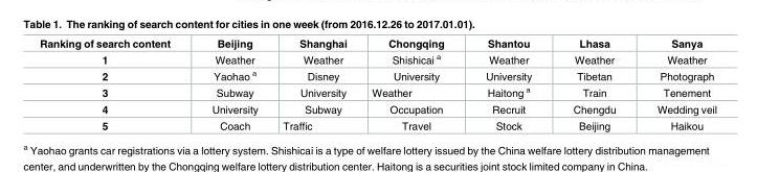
<table><thead><tr><td>Ranking of search content</td><td>Beijing</td><td>Shanghai</td><td>Chongqing</td><td>Shantou</td><td>Lhasa</td><td>Sanya</td></tr></thead><tbody><tr><td>1</td><td>Weather</td><td>Weather</td><td>Shishicai <sup>a</sup></td><td>Weather</td><td>Weather</td><td>Weather</td></tr><tr><td>2</td><td>Yaohao <sup>a</sup></td><td>Disney</td><td>University</td><td>University</td><td>Tibetan</td><td>Photograph</td></tr><tr><td>3</td><td>Subway</td><td>University</td><td>Weather</td><td>Haitong <sup>a</sup></td><td>Train</td><td>Tenement</td></tr><tr><td>4</td><td>University</td><td>Subway</td><td>Occupation</td><td>Recruit</td><td>Chengdu</td><td>Wedding veil</td></tr><tr><td>5</td><td>Coach</td><td>Traffic</td><td>Travel</td><td>Stock</td><td>Beijing</td><td>Haikou</td></tr></tbody></table>